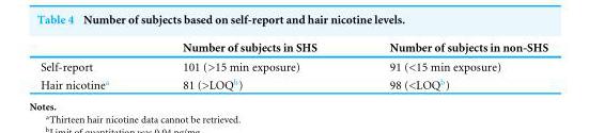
<table><thead><tr><td></td><td>Number of subjects in SHS</td><td>Number of subjects in non-SHS</td></tr></thead><tbody><tr><td>Self-report</td><td>101 (&gt;15 min exposure)</td><td>91 (&lt;15 min exposure)</td></tr><tr><td>Hair nicotine<sup>a</sup></td><td>81 (&gt;LOQ<sup>b</sup>)</td><td>98 (&lt;LOQ<sup>b</sup>)</td></tr></tbody></table>